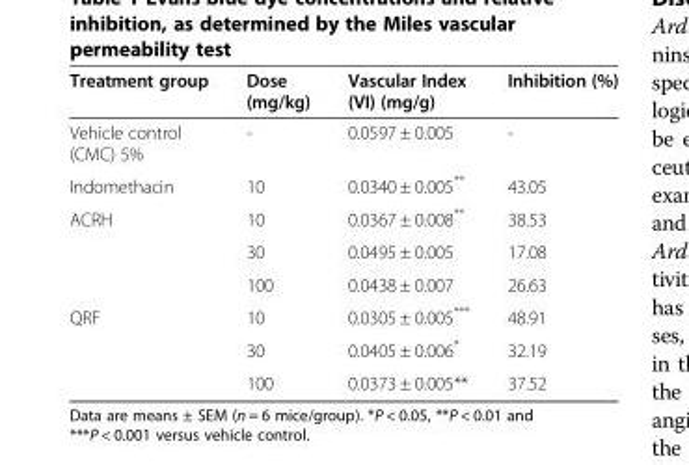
<table><thead><tr><td>Treatment group</td><td>Dose (mg/kg)</td><td>Vascular Index (VI) (mg/g)</td><td>Inhibition (%)</td></tr></thead><tbody><tr><td>Vehicle control (CMC) 5%</td><td>-</td><td>0.0597 ± 0.005</td><td>-</td></tr><tr><td>Indomethacin</td><td>10</td><td>0.0340 ± 0.005**</td><td>43.05</td></tr><tr><td rowspan="3">ACRH</td><td>10</td><td>0.0367 ± 0.008**</td><td>38.53</td></tr><tr><td>30</td><td>0.0495 ± 0.005</td><td>17.08</td></tr><tr><td>100</td><td>0.0438 ± 0.007</td><td>26.63</td></tr><tr><td rowspan="3">QRF</td><td>10</td><td>0.0305 ± 0.005***</td><td>48.91</td></tr><tr><td>30</td><td>0.0405 ± 0.006*</td><td>32.19</td></tr><tr><td>100</td><td>0.0373 ± 0.005**</td><td>37.52</td></tr></tbody></table>